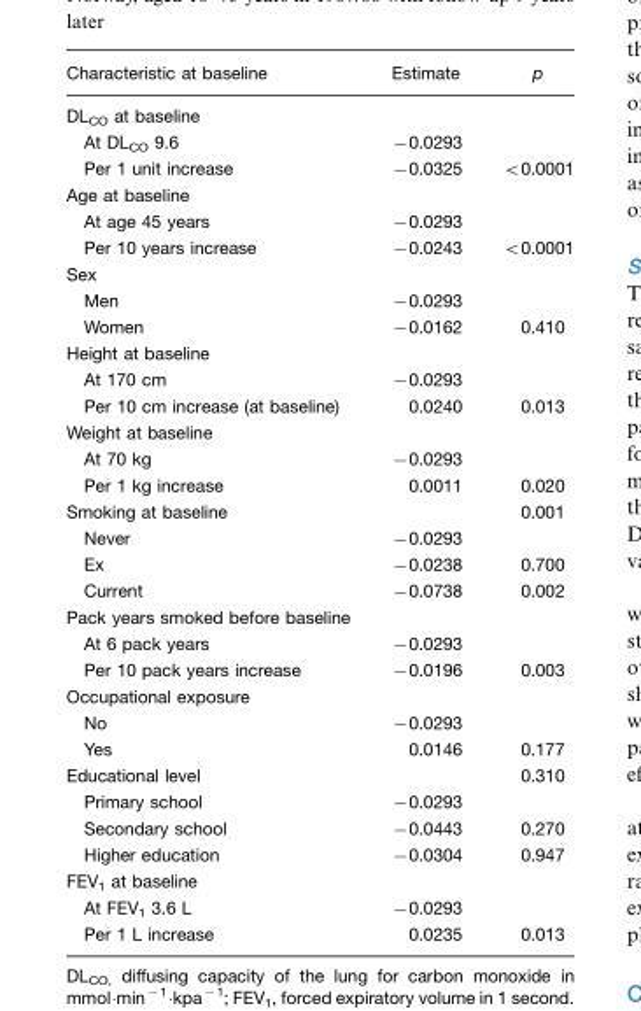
<table><thead><tr><td>Characteristic at baseline</td><td>Estimate</td><td>p</td></tr></thead><tbody><tr><td colspan="3">DL<sub>CO</sub> at baseline</td></tr><tr><td>At DL<sub>CO</sub> 9.6</td><td>−0.0293</td><td></td></tr><tr><td>Per 1 unit increase</td><td>−0.0325</td><td>&lt;0.0001</td></tr><tr><td colspan="3">Age at baseline</td></tr><tr><td>At age 45 years</td><td>−0.0293</td><td></td></tr><tr><td>Per 10 years increase</td><td>−0.0243</td><td>&lt;0.0001</td></tr><tr><td colspan="3">Sex</td></tr><tr><td>Men</td><td>−0.0293</td><td></td></tr><tr><td>Women</td><td>−0.0162</td><td>0.410</td></tr><tr><td colspan="3">Height at baseline</td></tr><tr><td>At 170 cm</td><td>−0.0293</td><td></td></tr><tr><td>Per 10 cm increase (at baseline)</td><td>0.0240</td><td>0.013</td></tr><tr><td colspan="3">Weight at baseline</td></tr><tr><td>At 70 kg</td><td>−0.0293</td><td></td></tr><tr><td>Per 1 kg increase</td><td>0.0011</td><td>0.020</td></tr><tr><td>Smoking at baseline</td><td></td><td>0.001</td></tr><tr><td>Never</td><td>−0.0293</td><td></td></tr><tr><td>Ex</td><td>−0.0238</td><td>0.700</td></tr><tr><td>Current</td><td>−0.0738</td><td>0.002</td></tr><tr><td colspan="3">Pack years smoked before baseline</td></tr><tr><td>At 6 pack years</td><td>−0.0293</td><td></td></tr><tr><td>Per 10 pack years increase</td><td>−0.0196</td><td>0.003</td></tr><tr><td colspan="3">Occupational exposure</td></tr><tr><td>No</td><td>−0.0293</td><td></td></tr><tr><td>Yes</td><td>0.0146</td><td>0.177</td></tr><tr><td>Educational level</td><td></td><td>0.310</td></tr><tr><td>Primary school</td><td>−0.0293</td><td></td></tr><tr><td>Secondary school</td><td>−0.0443</td><td>0.270</td></tr><tr><td>Higher education</td><td>−0.0304</td><td>0.947</td></tr><tr><td colspan="3">FEV<sub>1</sub> at baseline</td></tr><tr><td>At FEV<sub>1</sub> 3.6 L</td><td>−0.0293</td><td></td></tr><tr><td>Per 1 L increase</td><td>0.0235</td><td>0.013</td></tr></tbody></table>